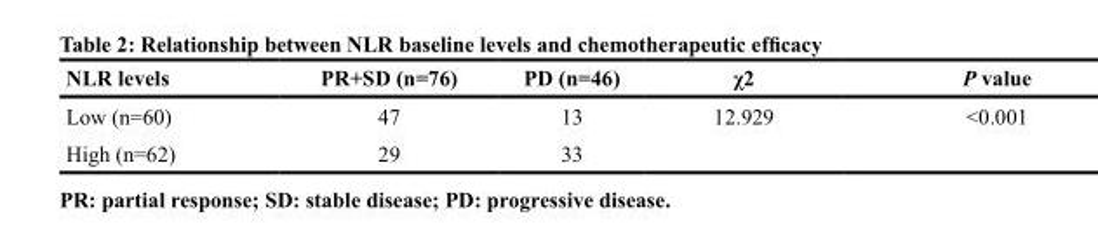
<table><thead><tr><td>NLR levels</td><td>PR+SD (n=76)</td><td>PD (n=46)</td><td>χ2</td><td>P value</td></tr></thead><tbody><tr><td>Low (n=60)</td><td>47</td><td>13</td><td rowspan="2">12.929</td><td rowspan="2">&lt;0.001</td></tr><tr><td>High (n=62)</td><td>29</td><td>33</td></tr></tbody></table>